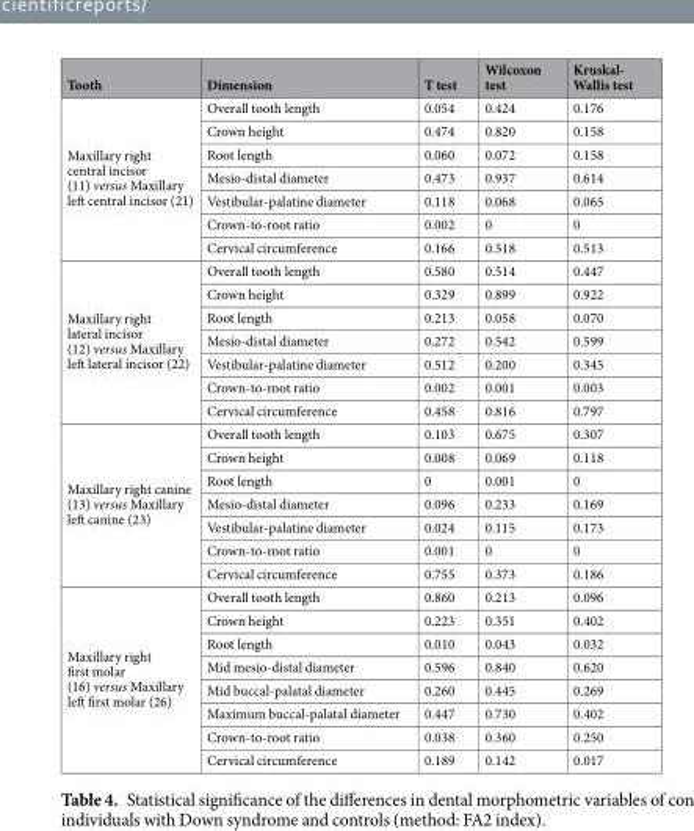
<table><thead><tr><td>Tooth</td><td>Dimension</td><td>T test</td><td>Wilcoxon test</td><td>Kruskal- Wallis test</td></tr></thead><tbody><tr><td rowspan="7">Maxillary right central incisor (11) versus Maxillary left central incisor (21)</td><td>Overall tooth length</td><td>0.054</td><td>0.424</td><td>0.176</td></tr><tr><td>Crown height</td><td>0.474</td><td>0.820</td><td>0.158</td></tr><tr><td>Root length</td><td>0.060</td><td>0.072</td><td>0.158</td></tr><tr><td>Mesio-distal diameter</td><td>0.473</td><td>0.937</td><td>0.614</td></tr><tr><td>Vestibular-palatine diameter</td><td>0.118</td><td>0.068</td><td>0.065</td></tr><tr><td>Crown-to-root ratio</td><td>0.002</td><td>0</td><td>0</td></tr><tr><td>Cervical circumference</td><td>0.166</td><td>0.518</td><td>0.513</td></tr><tr><td rowspan="7">Maxillary right lateral incisor (12) versus Maxillary left lateral incisor (22)</td><td>Overall tooth length</td><td>0.580</td><td>0.514</td><td>0.447</td></tr><tr><td>Crown height</td><td>0.329</td><td>0.899</td><td>0.922</td></tr><tr><td>Root length</td><td>0.213</td><td>0.058</td><td>0.070</td></tr><tr><td>Mesio-distal diameter</td><td>0.272</td><td>0.542</td><td>0.599</td></tr><tr><td>Vestibular-palatine diameter</td><td>0.512</td><td>0.200</td><td>0.345</td></tr><tr><td>Crown-to-root ratio</td><td>0.002</td><td>0.001</td><td>0.003</td></tr><tr><td>Cervical circumference</td><td>0.458</td><td>0.816</td><td>0.797</td></tr><tr><td rowspan="7">Maxillary right canine (13) versus Maxillary left canine (23)</td><td>Overall tooth length</td><td>0.103</td><td>0.675</td><td>0.307</td></tr><tr><td>Crown height</td><td>0.008</td><td>0.069</td><td>0.118</td></tr><tr><td>Root length</td><td>0</td><td>0.001</td><td>0</td></tr><tr><td>Mesio-distal diameter</td><td>0.096</td><td>0.233</td><td>0.169</td></tr><tr><td>Vestibular-palatine diameter</td><td>0.024</td><td>0.115</td><td>0.173</td></tr><tr><td>Crown-to-root ratio</td><td>0.001</td><td>0</td><td>0</td></tr><tr><td>Cervical circumference</td><td>0.755</td><td>0.373</td><td>0.186</td></tr><tr><td rowspan="8">Maxillary right first molar (16) versus Maxillary left first molar (26)</td><td>Overall tooth length</td><td>0.860</td><td>0.213</td><td>0.096</td></tr><tr><td>Crown height</td><td>0.223</td><td>0.351</td><td>0.402</td></tr><tr><td>Root length</td><td>0.010</td><td>0.043</td><td>0.032</td></tr><tr><td>Mid mesio-distal diameter</td><td>0.596</td><td>0.840</td><td>0.620</td></tr><tr><td>Mid buccal-palatal diameter</td><td>0.260</td><td>0.445</td><td>0.269</td></tr><tr><td>Maximum buccal-palatal diameter</td><td>0.447</td><td>0.730</td><td>0.402</td></tr><tr><td>Crown-to-root ratio</td><td>0.038</td><td>0.360</td><td>0.250</td></tr><tr><td>Cervical circumference</td><td>0.189</td><td>0.142</td><td>0.017</td></tr></tbody></table>